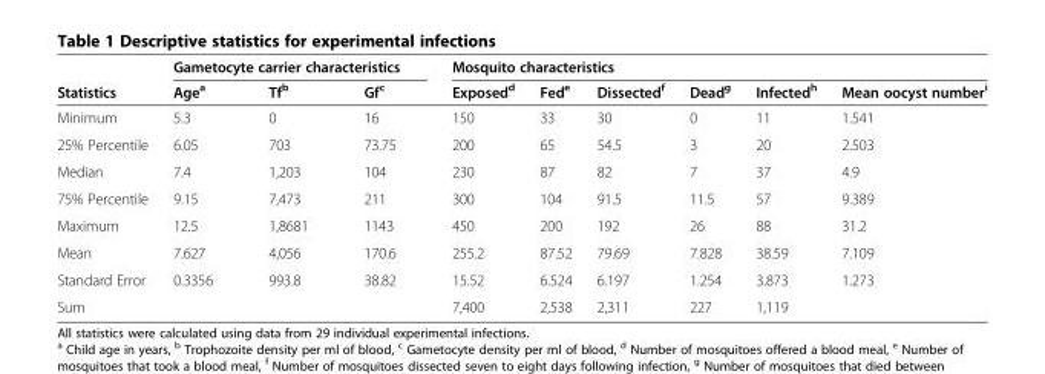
<table><thead><tr><td rowspan="2">Statistics</td><td colspan="3">Gametocyte carrier characteristics</td><td colspan="6">Mosquito characteristics</td></tr><tr><td>Age<sup>a</sup></td><td>Tf<sup>b</sup></td><td>Gf<sup>c</sup></td><td>Exposed<sup>d</sup></td><td>Fed<sup>e</sup></td><td>Dissected<sup>f</sup></td><td>Dead<sup>g</sup></td><td>Infected<sup>h</sup></td><td>Mean oocyst number<sup>i</sup></td></tr></thead><tbody><tr><td>Minimum</td><td>5.3</td><td>0</td><td>16</td><td>150</td><td>33</td><td>30</td><td>0</td><td>11</td><td>1.541</td></tr><tr><td>25% Percentile</td><td>6.05</td><td>703</td><td>73.75</td><td>200</td><td>65</td><td>54.5</td><td>3</td><td>20</td><td>2.503</td></tr><tr><td>Median</td><td>7.4</td><td>1,203</td><td>104</td><td>230</td><td>87</td><td>82</td><td>7</td><td>37</td><td>4.9</td></tr><tr><td>75% Percentile</td><td>9.15</td><td>7,473</td><td>211</td><td>300</td><td>104</td><td>91.5</td><td>11.5</td><td>57</td><td>9.389</td></tr><tr><td>Maximum</td><td>12.5</td><td>1,8681</td><td>1143</td><td>450</td><td>200</td><td>192</td><td>26</td><td>88</td><td>31.2</td></tr><tr><td>Mean</td><td>7.627</td><td>4,056</td><td>170.6</td><td>255.2</td><td>87.52</td><td>79.69</td><td>7.828</td><td>38.59</td><td>7.109</td></tr><tr><td>Standard Error</td><td>0.3356</td><td>993.8</td><td>38.82</td><td>15.52</td><td>6.524</td><td>6.197</td><td>1.254</td><td>3.873</td><td>1.273</td></tr><tr><td>Sum</td><td></td><td></td><td></td><td>7,400</td><td>2,538</td><td>2,311</td><td>227</td><td>1,119</td><td></td></tr></tbody></table>